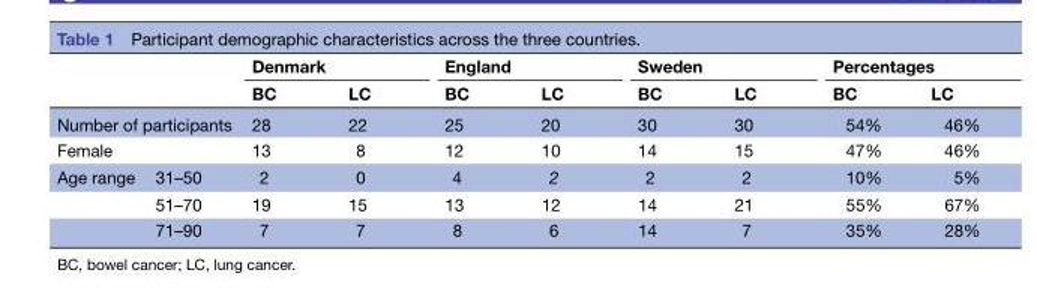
<table><thead><tr><td rowspan="2"></td><td rowspan="2"></td><td colspan="2">Denmark</td><td colspan="2">England</td><td colspan="2">Sweden</td><td colspan="2">Percentages</td></tr><tr><td>BC</td><td>LC</td><td>BC</td><td>LC</td><td>BC</td><td>LC</td><td>BC</td><td>LC</td></tr></thead><tbody><tr><td colspan="2">Number of participants</td><td>28</td><td>22</td><td>25</td><td>20</td><td>30</td><td>30</td><td>54%</td><td>46%</td></tr><tr><td colspan="2">Female</td><td>13</td><td>8</td><td>12</td><td>10</td><td>14</td><td>15</td><td>47%</td><td>46%</td></tr><tr><td rowspan="3">Age range</td><td>31–50</td><td>2</td><td>0</td><td>4</td><td>2</td><td>2</td><td>2</td><td>10%</td><td>5%</td></tr><tr><td>51–70</td><td>19</td><td>15</td><td>13</td><td>12</td><td>14</td><td>21</td><td>55%</td><td>67%</td></tr><tr><td>71–90</td><td>7</td><td>7</td><td>8</td><td>6</td><td>14</td><td>7</td><td>35%</td><td>28%</td></tr></tbody></table>